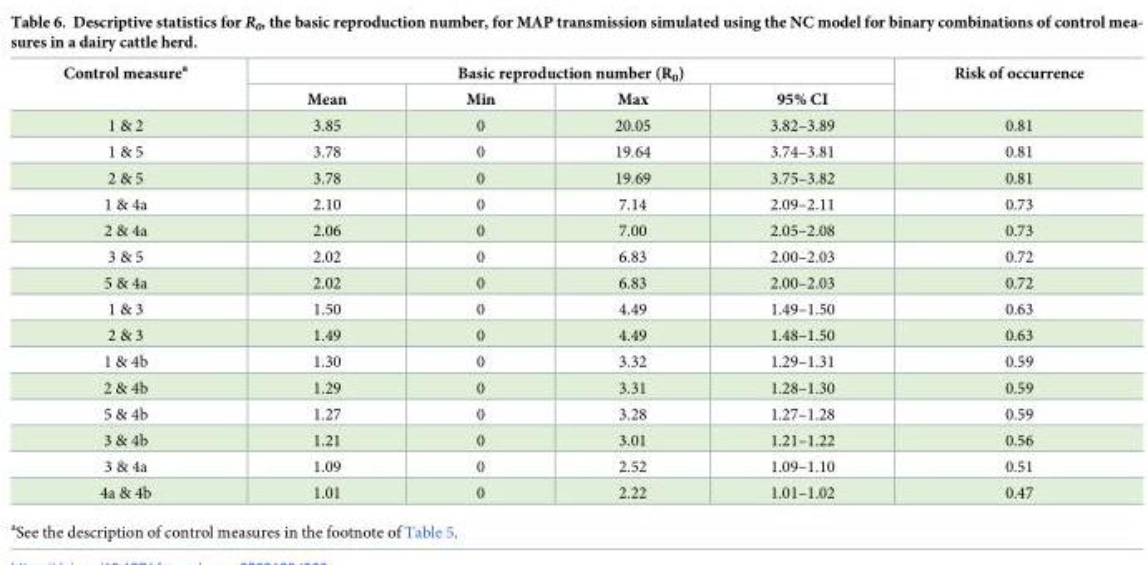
<table><thead><tr><td rowspan="2">Control measure<sup>a</sup></td><td colspan="4">Basic reproduction number (R<sub>0</sub>)</td><td rowspan="2">Risk of occurrence</td></tr><tr><td>Mean</td><td>Min</td><td>Max</td><td>95% CI</td></tr></thead><tbody><tr><td>1 &amp; 2</td><td>3.85</td><td>0</td><td>20.05</td><td>3.82–3.89</td><td>0.81</td></tr><tr><td>1 &amp; 5</td><td>3.78</td><td>0</td><td>19.64</td><td>3.74–3.81</td><td>0.81</td></tr><tr><td>2 &amp; 5</td><td>3.78</td><td>0</td><td>19.69</td><td>3.75–3.82</td><td>0.81</td></tr><tr><td>1 &amp; 4a</td><td>2.10</td><td>0</td><td>7.14</td><td>2.09–2.11</td><td>0.73</td></tr><tr><td>2 &amp; 4a</td><td>2.06</td><td>0</td><td>7.00</td><td>2.05–2.08</td><td>0.73</td></tr><tr><td>3 &amp; 5</td><td>2.02</td><td>0</td><td>6.83</td><td>2.00–2.03</td><td>0.72</td></tr><tr><td>5 &amp; 4a</td><td>2.02</td><td>0</td><td>6.83</td><td>2.00–2.03</td><td>0.72</td></tr><tr><td>1 &amp; 3</td><td>1.50</td><td>0</td><td>4.49</td><td>1.49–1.50</td><td>0.63</td></tr><tr><td>2 &amp; 3</td><td>1.49</td><td>0</td><td>4.49</td><td>1.48–1.50</td><td>0.63</td></tr><tr><td>1 &amp; 4b</td><td>1.30</td><td>0</td><td>3.32</td><td>1.29–1.31</td><td>0.59</td></tr><tr><td>2 &amp; 4b</td><td>1.29</td><td>0</td><td>3.31</td><td>1.28–1.30</td><td>0.59</td></tr><tr><td>5 &amp; 4b</td><td>1.27</td><td>0</td><td>3.28</td><td>1.27–1.28</td><td>0.59</td></tr><tr><td>3 &amp; 4b</td><td>1.21</td><td>0</td><td>3.01</td><td>1.21–1.22</td><td>0.56</td></tr><tr><td>3 &amp; 4a</td><td>1.09</td><td>0</td><td>2.52</td><td>1.09–1.10</td><td>0.51</td></tr><tr><td>4a &amp; 4b</td><td>1.01</td><td>0</td><td>2.22</td><td>1.01–1.02</td><td>0.47</td></tr></tbody></table>